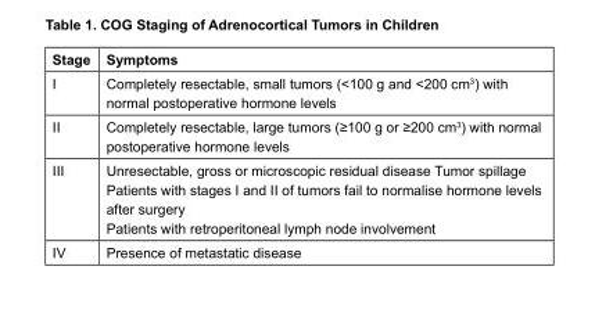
<table><thead><tr><td>Stage</td><td>Symptoms</td></tr></thead><tbody><tr><td>I</td><td>Completely resectable, small tumors (&lt;100 g and &lt;200 cm<sup>3</sup>) with normal postoperative hormone levels</td></tr><tr><td>II</td><td>Completely resectable, large tumors (≥100 g or ≥200 cm<sup>3</sup>) with normal postoperative hormone levels</td></tr><tr><td>III</td><td>Unresectable, gross or microscopic residual disease Tumor spillage Patients with stages I and II of tumors fail to normalise hormone levels after surgery Patients with retroperitoneal lymph node involvement</td></tr><tr><td>IV</td><td>Presence of metastatic disease</td></tr></tbody></table>